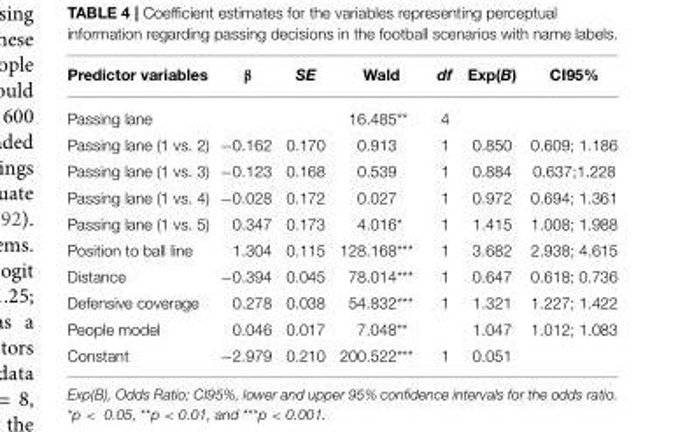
<table><thead><tr><td>Predictor variables</td><td>β</td><td>SE</td><td>Wald</td><td>df</td><td>Exp(B)</td><td>CI95%</td></tr></thead><tbody><tr><td>Passing lane</td><td></td><td></td><td>16.485**</td><td>4</td><td></td><td></td></tr><tr><td>Passing lane (1 vs. 2)</td><td>−0.162</td><td>0.170</td><td>0.913</td><td>1</td><td>0.850</td><td>0.609; 1.186</td></tr><tr><td>Passing lane (1 vs. 3)</td><td>−0.123</td><td>0.168</td><td>0.539</td><td>1</td><td>0.884</td><td>0.637;1.228</td></tr><tr><td>Passing lane (1 vs. 4)</td><td>−0.028</td><td>0.172</td><td>0.027</td><td>1</td><td>0.972</td><td>0.694; 1.361</td></tr><tr><td>Passing lane (1 vs. 5)</td><td>0.347</td><td>0.173</td><td>4.016*</td><td>1</td><td>1.415</td><td>1.008; 1.988</td></tr><tr><td>Position to ball line</td><td>1.304</td><td>0.115</td><td>128.168***</td><td>1</td><td>3.682</td><td>2.938; 4.615</td></tr><tr><td>Distance</td><td>−0.394</td><td>0.045</td><td>78.014***</td><td>1</td><td>0.647</td><td>0.618; 0.736</td></tr><tr><td>Defensive coverage</td><td>0.278</td><td>0.038</td><td>54.832***</td><td>1</td><td>1.321</td><td>1.227; 1.422</td></tr><tr><td>People model</td><td>0.046</td><td>0.017</td><td>7.048**</td><td></td><td>1.047</td><td>1.012; 1.083</td></tr><tr><td>Constant</td><td>−2.979</td><td>0.210</td><td>200.522***</td><td>1</td><td>0.051</td><td></td></tr></tbody></table>